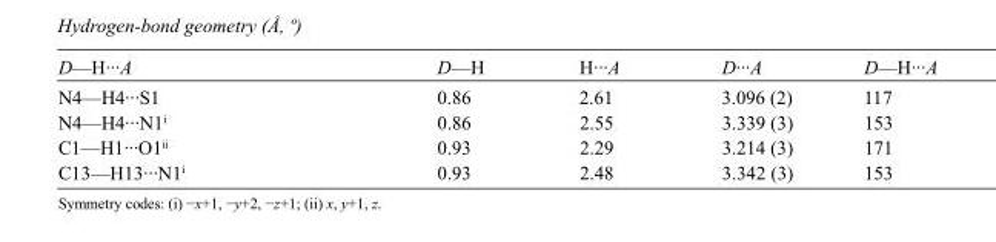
<table><tbody><tr><td>D—H···A</td><td>D—H</td><td>H···A</td><td>D···A</td><td>D—H···A</td></tr><tr><td>N4—H4···S1</td><td>0.86</td><td>2.61</td><td>3.096 (2)</td><td>117</td></tr><tr><td>N4—H4···N1<sup>i</sup></td><td>0.86</td><td>2.55</td><td>3.339 (3)</td><td>153</td></tr><tr><td>C1—H1···O1<sup>ii</sup></td><td>0.93</td><td>2.29</td><td>3.214 (3)</td><td>171</td></tr><tr><td>C13—H13···N1<sup>i</sup></td><td>0.93</td><td>2.48</td><td>3.342 (3)</td><td>153</td></tr></tbody></table>